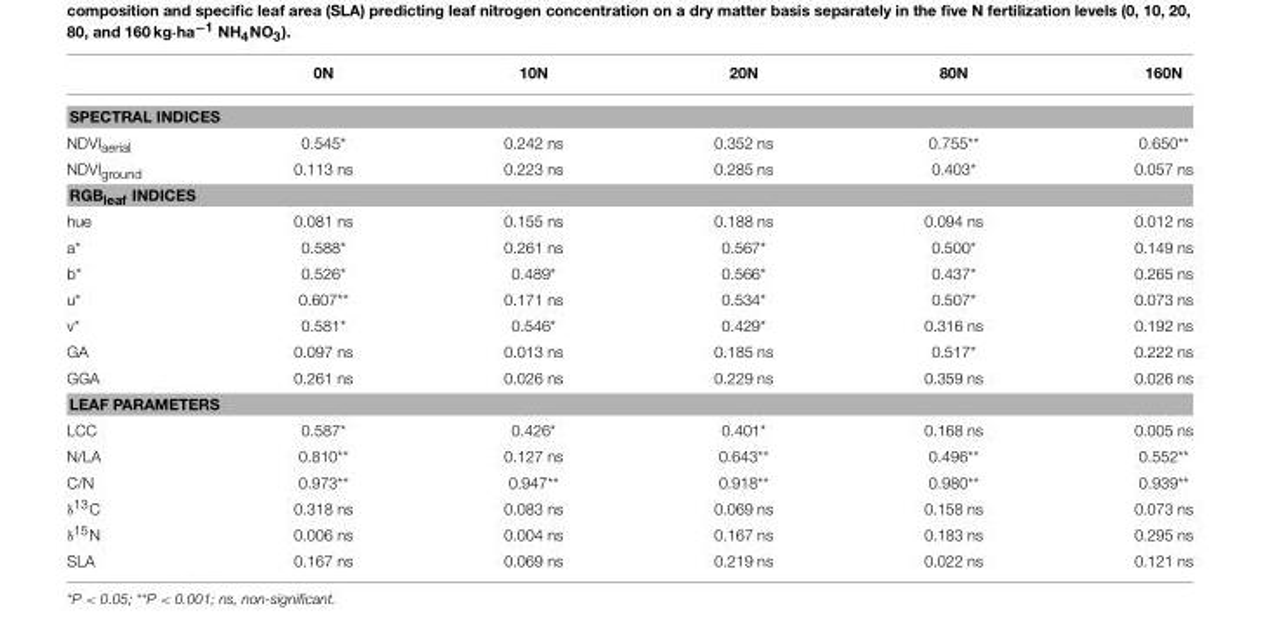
<table><thead><tr><td></td><td>0N</td><td>10N</td><td>20N</td><td>80N</td><td>160N</td></tr></thead><tbody><tr><td colspan="6">SPECTRAL INDICES</td></tr><tr><td>NDVI<sub>aerial</sub></td><td>0.545*</td><td>0.242 ns</td><td>0.352 ns</td><td>0.755**</td><td>0.650**</td></tr><tr><td>NDVI<sub>ground</sub></td><td>0.113 ns</td><td>0.223 ns</td><td>0.285 ns</td><td>0.403*</td><td>0.057 ns</td></tr><tr><td colspan="6">RGB<sub>leaf</sub> INDICES</td></tr><tr><td>hue</td><td>0.081 ns</td><td>0.155 ns</td><td>0.188 ns</td><td>0.094 ns</td><td>0.012 ns</td></tr><tr><td>a*</td><td>0.588*</td><td>0.261 ns</td><td>0.567*</td><td>0.500*</td><td>0.149 ns</td></tr><tr><td>b*</td><td>0.526*</td><td>0.489*</td><td>0.566*</td><td>0.437*</td><td>0.265 ns</td></tr><tr><td>u*</td><td>0.607**</td><td>0.171 ns</td><td>0.534*</td><td>0.507*</td><td>0.073 ns</td></tr><tr><td>v*</td><td>0.581*</td><td>0.546*</td><td>0.429*</td><td>0.316 ns</td><td>0.192 ns</td></tr><tr><td>GA</td><td>0.097 ns</td><td>0.013 ns</td><td>0.185 ns</td><td>0.517*</td><td>0.222 ns</td></tr><tr><td>GGA</td><td>0.261 ns</td><td>0.026 ns</td><td>0.229 ns</td><td>0.359 ns</td><td>0.026 ns</td></tr><tr><td colspan="6">LEAF PARAMETERS</td></tr><tr><td>LCC</td><td>0.587*</td><td>0.426*</td><td>0.401*</td><td>0.168 ns</td><td>0.005 ns</td></tr><tr><td>N/LA</td><td>0.810**</td><td>0.127 ns</td><td>0.643**</td><td>0.496**</td><td>0.552**</td></tr><tr><td>C/N</td><td>0.973**</td><td>0.947**</td><td>0.918**</td><td>0.980**</td><td>0.939**</td></tr><tr><td>δ<sup>13</sup>C</td><td>0.318 ns</td><td>0.083 ns</td><td>0.069 ns</td><td>0.158 ns</td><td>0.073 ns</td></tr><tr><td>δ<sup>15</sup>N</td><td>0.006 ns</td><td>0.004 ns</td><td>0.167 ns</td><td>0.183 ns</td><td>0.295 ns</td></tr><tr><td>SLA</td><td>0.167 ns</td><td>0.069 ns</td><td>0.219 ns</td><td>0.022 ns</td><td>0.121 ns</td></tr></tbody></table>